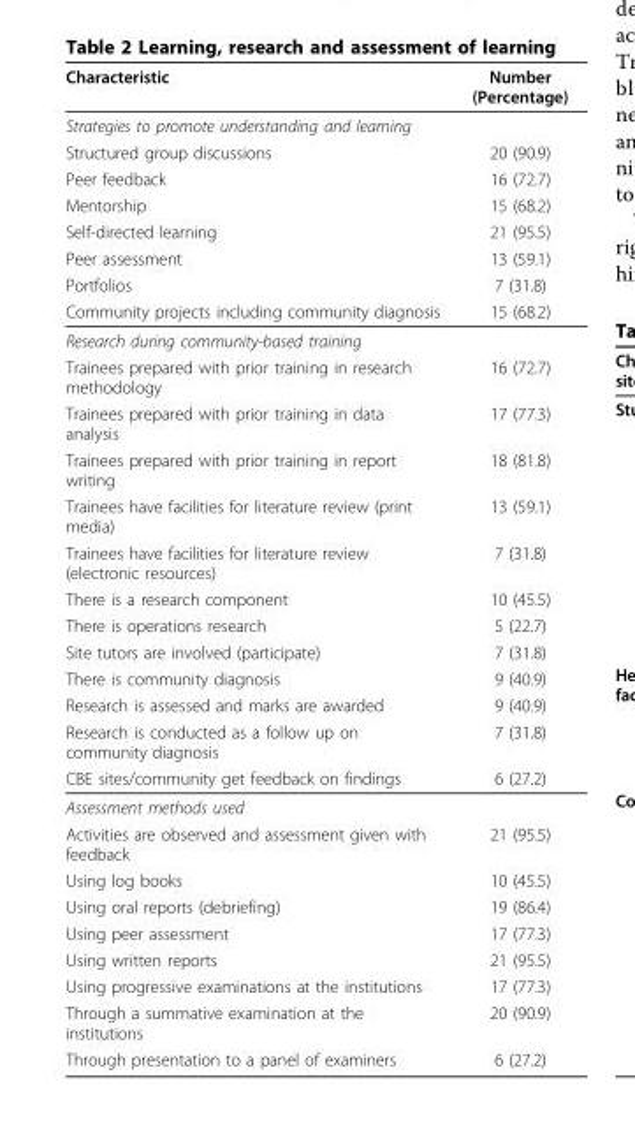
<table><thead><tr><td>Characteristic</td><td>Number (Percentage)</td></tr></thead><tbody><tr><td colspan="2">Strategies to promote understanding and learning</td></tr><tr><td>Structured group discussions</td><td>20 (90.9)</td></tr><tr><td>Peer feedback</td><td>16 (72.7)</td></tr><tr><td>Mentorship</td><td>15 (68.2)</td></tr><tr><td>Self-directed learning</td><td>21 (95.5)</td></tr><tr><td>Peer assessment</td><td>13 (59.1)</td></tr><tr><td>Portfolios</td><td>7 (31.8)</td></tr><tr><td>Community projects including community diagnosis</td><td>15 (68.2)</td></tr><tr><td colspan="2">Research during community-based training</td></tr><tr><td>Trainees prepared with prior training in research methodology</td><td>16 (72.7)</td></tr><tr><td>Trainees prepared with prior training in data analysis</td><td>17 (77.3)</td></tr><tr><td>Trainees prepared with prior training in report writing</td><td>18 (81.8)</td></tr><tr><td>Trainees have facilities for literature review (print media)</td><td>13 (59.1)</td></tr><tr><td>Trainees have facilities for literature review (electronic resources)</td><td>7 (31.8)</td></tr><tr><td>There is a research component</td><td>10 (45.5)</td></tr><tr><td>There is operations research</td><td>5 (22.7)</td></tr><tr><td>Site tutors are involved (participate)</td><td>7 (31.8)</td></tr><tr><td>There is community diagnosis</td><td>9 (40.9)</td></tr><tr><td>Research is assessed and marks are awarded</td><td>9 (40.9)</td></tr><tr><td>Research is conducted as a follow up on community diagnosis</td><td>7 (31.8)</td></tr><tr><td>CBE sites/community get feedback on findings</td><td>6 (27.2)</td></tr><tr><td colspan="2">Assessment methods used</td></tr><tr><td>Activities are observed and assessment given with feedback</td><td>21 (95.5)</td></tr><tr><td>Using log books</td><td>10 (45.5)</td></tr><tr><td>Using oral reports (debriefing)</td><td>19 (86.4)</td></tr><tr><td>Using peer assessment</td><td>17 (77.3)</td></tr><tr><td>Using written reports</td><td>21 (95.5)</td></tr><tr><td>Using progressive examinations at the institutions</td><td>17 (77.3)</td></tr><tr><td>Through a summative examination at the institutions</td><td>20 (90.9)</td></tr><tr><td>Through presentation to a panel of examiners</td><td>6 (27.2)</td></tr></tbody></table>